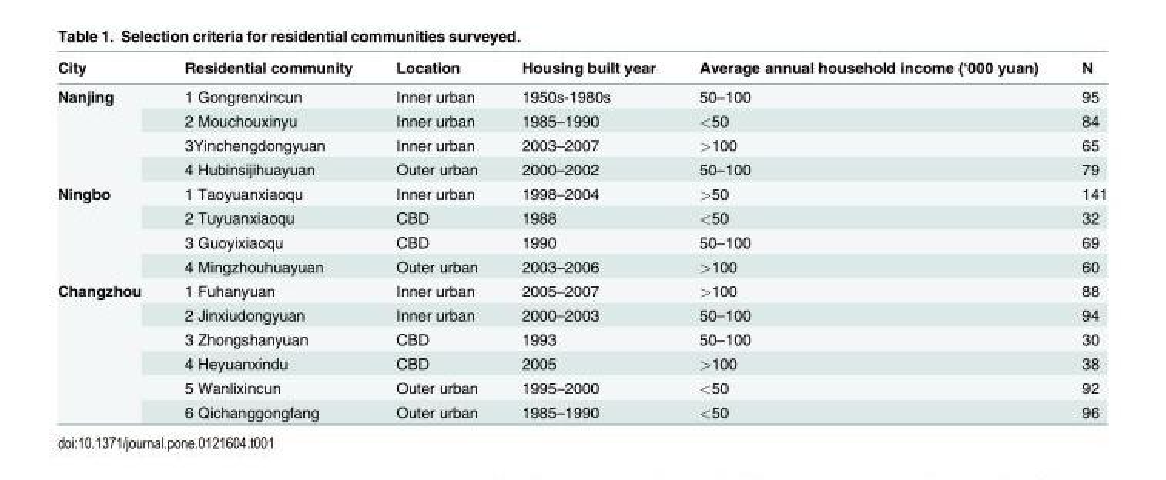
<table><thead><tr><td>City</td><td>Residential community</td><td>Location</td><td>Housing built year</td><td>Average annual household income (‘000 yuan)</td><td>N</td></tr></thead><tbody><tr><td rowspan="4">Nanjing</td><td>1 Gongrenxincun</td><td>Inner urban</td><td>1950s-1980s</td><td>50–100</td><td>95</td></tr><tr><td>2 Mouchouxinyu</td><td>Inner urban</td><td>1985–1990</td><td>&lt;50</td><td>84</td></tr><tr><td>3Yinchengdongyuan</td><td>Inner urban</td><td>2003–2007</td><td>&gt;100</td><td>65</td></tr><tr><td>4 Hubinsijihuayuan</td><td>Outer urban</td><td>2000–2002</td><td>50–100</td><td>79</td></tr><tr><td rowspan="4">Ningbo</td><td>1 Taoyuanxiaoqu</td><td>Inner urban</td><td>1998–2004</td><td>&gt;50</td><td>141</td></tr><tr><td>2 Tuyuanxiaoqu</td><td>CBD</td><td>1988</td><td>&lt;50</td><td>32</td></tr><tr><td>3 Guoyixiaoqu</td><td>CBD</td><td>1990</td><td>50–100</td><td>69</td></tr><tr><td>4 Mingzhouhuayuan</td><td>Outer urban</td><td>2003–2006</td><td>&gt;100</td><td>60</td></tr><tr><td rowspan="6">Changzhou</td><td>1 Fuhanyuan</td><td>Inner urban</td><td>2005–2007</td><td>&gt;100</td><td>88</td></tr><tr><td>2 Jinxiudongyuan</td><td>Inner urban</td><td>2000–2003</td><td>50–100</td><td>94</td></tr><tr><td>3 Zhongshanyuan</td><td>CBD</td><td>1993</td><td>50–100</td><td>30</td></tr><tr><td>4 Heyuanxindu</td><td>CBD</td><td>2005</td><td>&gt;100</td><td>38</td></tr><tr><td>5 Wanlixincun</td><td>Outer urban</td><td>1995–2000</td><td>&lt;50</td><td>92</td></tr><tr><td>6 Qichanggongfang</td><td>Outer urban</td><td>1985–1990</td><td>&lt;50</td><td>96</td></tr></tbody></table>